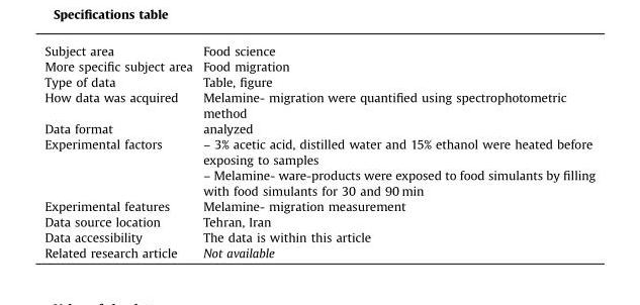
<table><tbody><tr><td>Subject area</td><td>Food science</td></tr><tr><td>More specific subject area</td><td>Food migration</td></tr><tr><td>Type of data</td><td>Table, figure</td></tr><tr><td>How data was acquired</td><td>Melamine- migration were quantified using spectrophotometric method</td></tr><tr><td>Data format</td><td>analyzed</td></tr><tr><td rowspan="2">Experimental factors</td><td>– 3% acetic acid, distilled water and 15% ethanol were heated before exposing to samples</td></tr><tr><td>– Melamine- ware-products were exposed to food simulants by filling with food simulants for 30 and 90 min</td></tr><tr><td>Experimental features</td><td>Melamine- migration measurement</td></tr><tr><td>Data source location</td><td>Tehran, Iran</td></tr><tr><td>Data accessibility</td><td>The data is within this article</td></tr><tr><td>Related research article</td><td>Not available</td></tr></tbody></table>